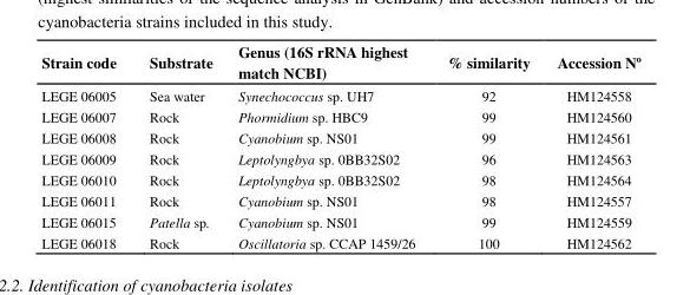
<table><thead><tr><td>Strain code</td><td>Substrate</td><td>Genus (16S rRNA highest match NCBI)</td><td>% similarity</td><td>Accession Nº</td></tr></thead><tbody><tr><td>LEGE 06005</td><td>Sea water</td><td>Synechococcus sp. UH7</td><td>92</td><td>HM124558</td></tr><tr><td>LEGE 06007</td><td>Rock</td><td>Phormidium sp. HBC9</td><td>99</td><td>HM124560</td></tr><tr><td>LEGE 06008</td><td>Rock</td><td>Cyanobium sp. NS01</td><td>99</td><td>HM124561</td></tr><tr><td>LEGE 06009</td><td>Rock</td><td>Leptolyngbya sp. 0BB32S02</td><td>96</td><td>HM124563</td></tr><tr><td>LEGE 06010</td><td>Rock</td><td>Leptolyngbya sp. 0BB32S02</td><td>98</td><td>HM124564</td></tr><tr><td>LEGE 06011</td><td>Rock</td><td>Cyanobium sp. NS01</td><td>98</td><td>HM124557</td></tr><tr><td>LEGE 06015</td><td>Patella sp.</td><td>Cyanobium sp. NS01</td><td>99</td><td>HM124559</td></tr><tr><td>LEGE 06018</td><td>Rock</td><td>Oscillatoria sp. CCAP 1459/26</td><td>100</td><td>HM124562</td></tr></tbody></table>